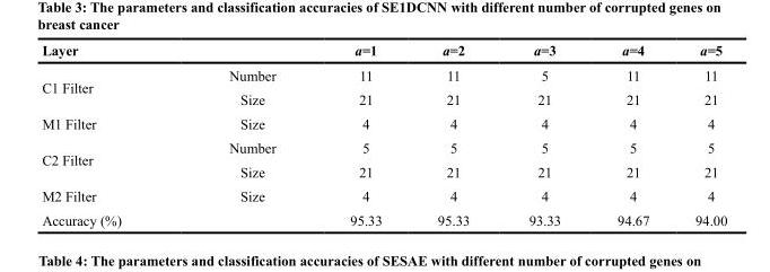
<table><thead><tr><td>Layer</td><td></td><td>a=1</td><td>a=2</td><td>a=3</td><td>a=4</td><td>a=5</td></tr></thead><tbody><tr><td rowspan="2">C1 Filter</td><td>Number</td><td>11</td><td>11</td><td>5</td><td>11</td><td>11</td></tr><tr><td>Size</td><td>21</td><td>21</td><td>21</td><td>21</td><td>21</td></tr><tr><td>M1 Filter</td><td>Size</td><td>4</td><td>4</td><td>4</td><td>4</td><td>4</td></tr><tr><td rowspan="2">C2 Filter</td><td>Number</td><td>5</td><td>5</td><td>5</td><td>5</td><td>5</td></tr><tr><td>Size</td><td>21</td><td>21</td><td>21</td><td>21</td><td>21</td></tr><tr><td>M2 Filter</td><td>Size</td><td>4</td><td>4</td><td>4</td><td>4</td><td>4</td></tr><tr><td colspan="2">Accuracy (%)</td><td>95.33</td><td>95.33</td><td>93.33</td><td>94.67</td><td>94.00</td></tr></tbody></table>